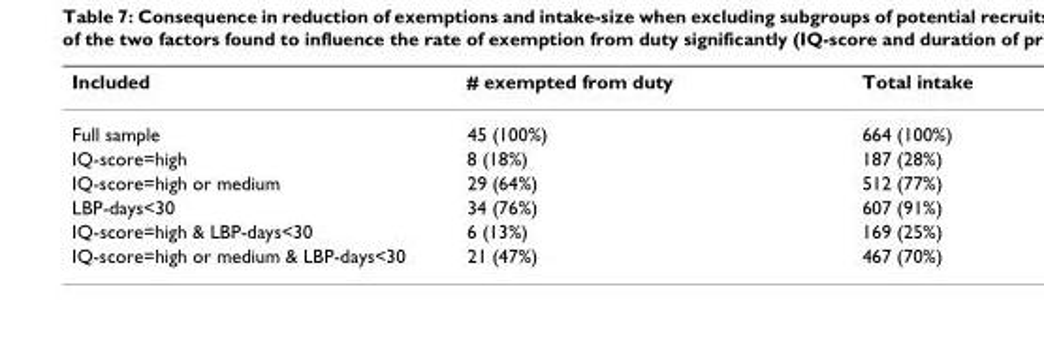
<table><thead><tr><td>Included</td><td># exempted from duty</td><td>Total intake</td></tr></thead><tbody><tr><td>Full sample</td><td>45 (100%)</td><td>664 (100%)</td></tr><tr><td>IQ-score=high</td><td>8 (18%)</td><td>187 (28%)</td></tr><tr><td>IQ-score=high or medium</td><td>29 (64%)</td><td>512 (77%)</td></tr><tr><td>LBP-days&lt;30</td><td>34 (76%)</td><td>607 (91%)</td></tr><tr><td>IQ-score=high &amp; LBP-days&lt;30</td><td>6 (13%)</td><td>169 (25%)</td></tr><tr><td>IQ-score=high or medium &amp; LBP-days&lt;30</td><td>21 (47%)</td><td>467 (70%)</td></tr></tbody></table>